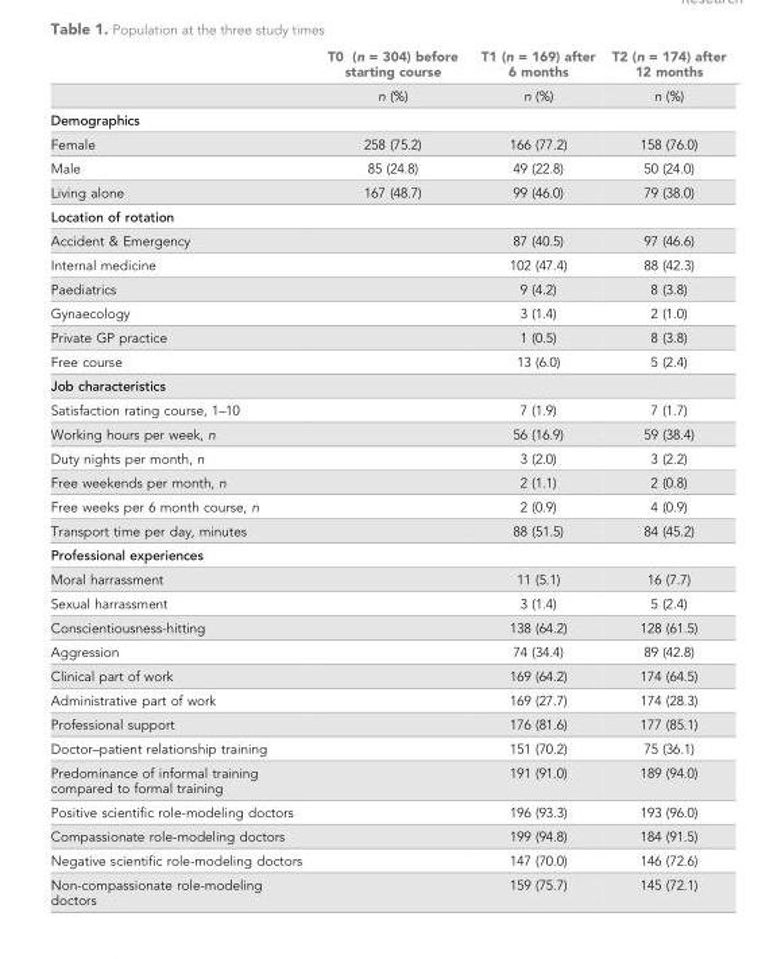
<table><thead><tr><td></td><td>T0 (n = 304) before starting course</td><td>T1 (n = 169) after 6 months</td><td>T2 (n = 174) after 12 months</td></tr></thead><tbody><tr><td></td><td>n (%)</td><td>n (%)</td><td>n (%)</td></tr><tr><td colspan="4">Demographics</td></tr><tr><td>Female</td><td>258 (75.2)</td><td>166 (77.2)</td><td>158 (76.0)</td></tr><tr><td>Male</td><td>85 (24.8)</td><td>49 (22.8)</td><td>50 (24.0)</td></tr><tr><td>Living alone</td><td>167 (48.7)</td><td>99 (46.0)</td><td>79 (38.0)</td></tr><tr><td colspan="4">Location of rotation</td></tr><tr><td>Accident &amp; Emergency</td><td></td><td>87 (40.5)</td><td>97 (46.6)</td></tr><tr><td>Internal medicine</td><td></td><td>102 (47.4)</td><td>88 (42.3)</td></tr><tr><td>Paediatrics</td><td></td><td>9 (4.2)</td><td>8 (3.8)</td></tr><tr><td>Gynaecology</td><td></td><td>3 (1.4)</td><td>2 (1.0)</td></tr><tr><td>Private GP practice</td><td></td><td>1 (0.5)</td><td>8 (3.8)</td></tr><tr><td>Free course</td><td></td><td>13 (6.0)</td><td>5 (2.4)</td></tr><tr><td colspan="4">Job characteristics</td></tr><tr><td>Satisfaction rating course, 1–10</td><td></td><td>7 (1.9)</td><td>7 (1.7)</td></tr><tr><td>Working hours per week, n</td><td></td><td>56 (16.9)</td><td>59 (38.4)</td></tr><tr><td>Duty nights per month, n</td><td></td><td>3 (2.0)</td><td>3 (2.2)</td></tr><tr><td>Free weekends per month, n</td><td></td><td>2 (1.1)</td><td>2 (0.8)</td></tr><tr><td>Free weeks per 6 month course, n</td><td></td><td>2 (0.9)</td><td>4 (0.9)</td></tr><tr><td>Transport time per day, minutes</td><td></td><td>88 (51.5)</td><td>84 (45.2)</td></tr><tr><td colspan="4">Professional experiences</td></tr><tr><td>Moral harrassment</td><td></td><td>11 (5.1)</td><td>16 (7.7)</td></tr><tr><td>Sexual harrassment</td><td></td><td>3 (1.4)</td><td>5 (2.4)</td></tr><tr><td>Conscientiousness-hitting</td><td></td><td>138 (64.2)</td><td>128 (61.5)</td></tr><tr><td>Aggression</td><td></td><td>74 (34.4)</td><td>89 (42.8)</td></tr><tr><td>Clinical part of work</td><td></td><td>169 (64.2)</td><td>174 (64.5)</td></tr><tr><td>Administrative part of work</td><td></td><td>169 (27.7)</td><td>174 (28.3)</td></tr><tr><td>Professional support</td><td></td><td>176 (81.6)</td><td>177 (85.1)</td></tr><tr><td>Doctor–patient relationship training</td><td></td><td>151 (70.2)</td><td>75 (36.1)</td></tr><tr><td>Predominance of informal training compared to formal training</td><td></td><td>191 (91.0)</td><td>189 (94.0)</td></tr><tr><td>Positive scientific role-modeling doctors</td><td></td><td>196 (93.3)</td><td>193 (96.0)</td></tr><tr><td>Compassionate role-modeling doctors</td><td></td><td>199 (94.8)</td><td>184 (91.5)</td></tr><tr><td>Negative scientific role-modeling doctors</td><td></td><td>147 (70.0)</td><td>146 (72.6)</td></tr><tr><td>Non-compassionate role-modeling doctors</td><td></td><td>159 (75.7)</td><td>145 (72.1)</td></tr></tbody></table>